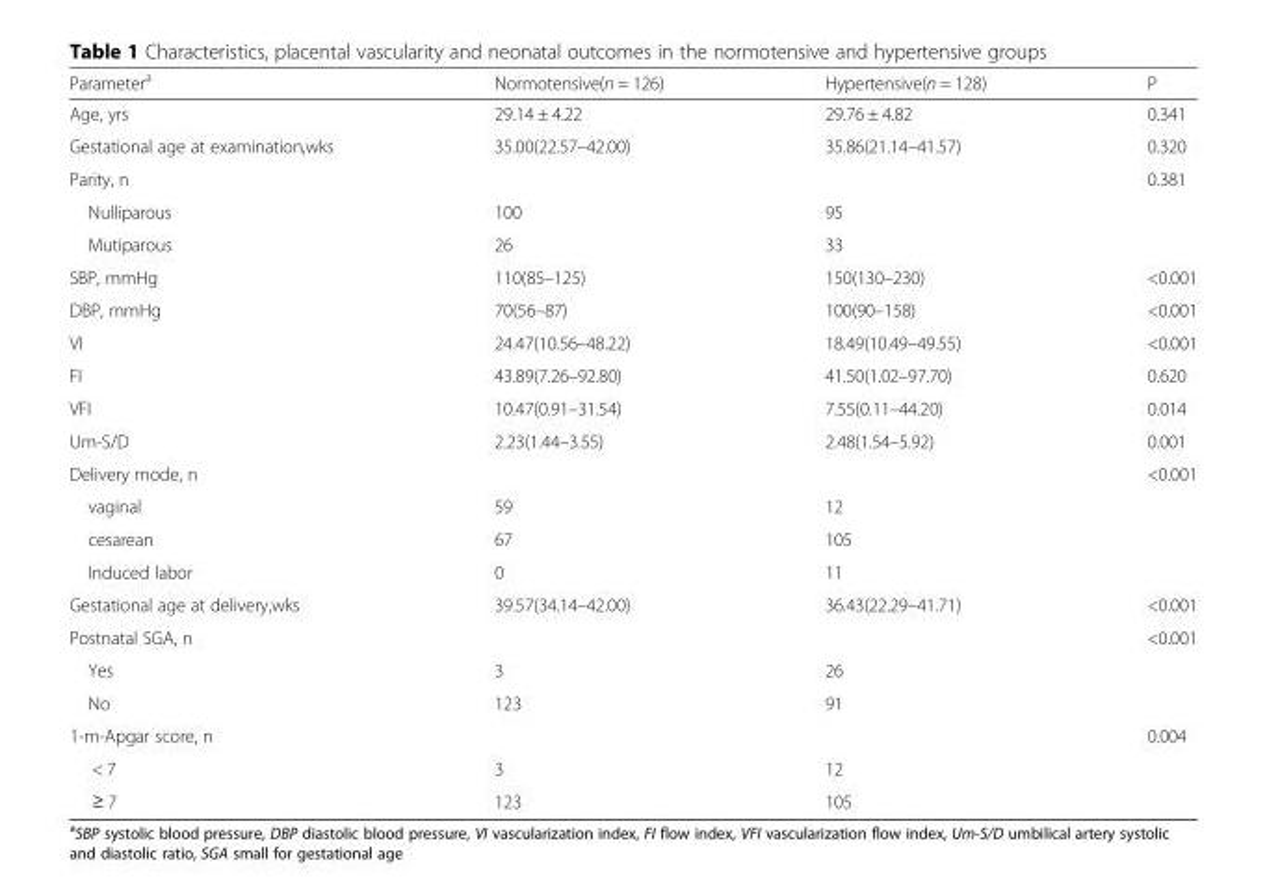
<table><thead><tr><td>Parameter<sup>a</sup></td><td>Normotensive(n = 126)</td><td>Hypertensive(n = 128)</td><td>P</td></tr></thead><tbody><tr><td>Age, yrs</td><td>29.14 ± 4.22</td><td>29.76 ± 4.82</td><td>0.341</td></tr><tr><td>Gestational age at examination,wks</td><td>35.00(22.57–42.00)</td><td>35.86(21.14–41.57)</td><td>0.320</td></tr><tr><td>Parity, n</td><td></td><td></td><td>0.381</td></tr><tr><td>Nulliparous</td><td>100</td><td>95</td><td></td></tr><tr><td>Mutiparous</td><td>26</td><td>33</td><td></td></tr><tr><td>SBP, mmHg</td><td>110(85–125)</td><td>150(130–230)</td><td>&lt;0.001</td></tr><tr><td>DBP, mmHg</td><td>70(56–87)</td><td>100(90–158)</td><td>&lt;0.001</td></tr><tr><td>VI</td><td>24.47(10.56–48.22)</td><td>18.49(10.49–49.55)</td><td>&lt;0.001</td></tr><tr><td>FI</td><td>43.89(7.26–92.80)</td><td>41.50(1.02–97.70)</td><td>0.620</td></tr><tr><td>VFI</td><td>10.47(0.91–31.54)</td><td>7.55(0.11–44.20)</td><td>0.014</td></tr><tr><td>Um-S/D</td><td>2.23(1.44–3.55)</td><td>2.48(1.54–5.92)</td><td>0.001</td></tr><tr><td>Delivery mode, n</td><td></td><td></td><td>&lt;0.001</td></tr><tr><td>vaginal</td><td>59</td><td>12</td><td></td></tr><tr><td>cesarean</td><td>67</td><td>105</td><td></td></tr><tr><td>Induced labor</td><td>0</td><td>11</td><td></td></tr><tr><td>Gestational age at delivery,wks</td><td>39.57(34.14–42.00)</td><td>36.43(22.29–41.71)</td><td>&lt;0.001</td></tr><tr><td>Postnatal SGA, n</td><td></td><td></td><td>&lt;0.001</td></tr><tr><td>Yes</td><td>3</td><td>26</td><td></td></tr><tr><td>No</td><td>123</td><td>91</td><td></td></tr><tr><td>1-m-Apgar score, n</td><td></td><td></td><td>0.004</td></tr><tr><td>&lt; 7</td><td>3</td><td>12</td><td></td></tr><tr><td>≥ 7</td><td>123</td><td>105</td><td></td></tr></tbody></table>